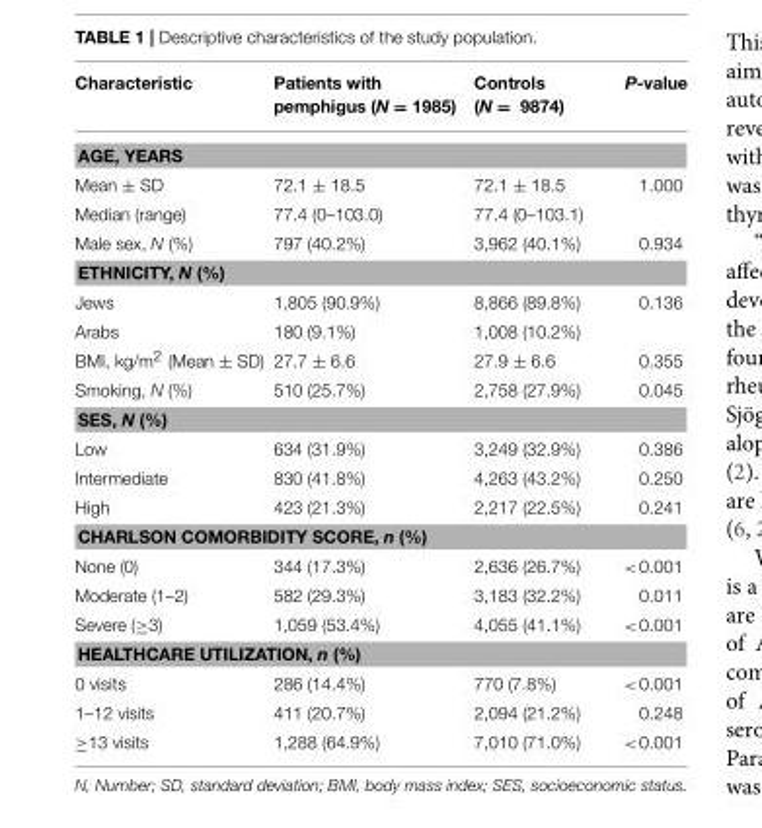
<table><thead><tr><td>Characteristic</td><td>Patients with pemphigus (N = 1985)</td><td>Controls (N = 9874)</td><td>P-value</td></tr></thead><tbody><tr><td colspan="4">AGE, YEARS</td></tr><tr><td>Mean ± SD</td><td>72.1 ± 18.5</td><td>72.1 ± 18.5</td><td>1.000</td></tr><tr><td>Median (range)</td><td>77.4 (0–103.0)</td><td>77.4 (0–103.1)</td><td></td></tr><tr><td>Male sex, N (%)</td><td>797 (40.2%)</td><td>3,962 (40.1%)</td><td>0.934</td></tr><tr><td colspan="4">ETHNICITY, N (%)</td></tr><tr><td>Jews</td><td>1,805 (90.9%)</td><td>8,866 (89.8%)</td><td>0.136</td></tr><tr><td>Arabs</td><td>180 (9.1%)</td><td>1,008 (10.2%)</td><td></td></tr><tr><td>BMI, kg/m<sup>2</sup> (Mean ± SD)</td><td>27.7 ± 6.6</td><td>27.9 ± 6.6</td><td>0.355</td></tr><tr><td>Smoking, N (%)</td><td>510 (25.7%)</td><td>2,758 (27.9%)</td><td>0.045</td></tr><tr><td colspan="4">SES, N (%)</td></tr><tr><td>Low</td><td>634 (31.9%)</td><td>3,249 (32.9%)</td><td>0.386</td></tr><tr><td>Intermediate</td><td>830 (41.8%)</td><td>4,263 (43.2%)</td><td>0.250</td></tr><tr><td>High</td><td>423 (21.3%)</td><td>2,217 (22.5%)</td><td>0.241</td></tr><tr><td colspan="4">CHARLSON COMORBIDITY SCORE, n (%)</td></tr><tr><td>None (0)</td><td>344 (17.3%)</td><td>2,636 (26.7%)</td><td>&lt;0.001</td></tr><tr><td>Moderate (1–2)</td><td>582 (29.3%)</td><td>3,183 (32.2%)</td><td>0.011</td></tr><tr><td>Severe (≥3)</td><td>1,059 (53.4%)</td><td>4,055 (41.1%)</td><td>&lt;0.001</td></tr><tr><td colspan="4">HEALTHCARE UTILIZATION, n (%)</td></tr><tr><td>0 visits</td><td>286 (14.4%)</td><td>770 (7.8%)</td><td>&lt;0.001</td></tr><tr><td>1–12 visits</td><td>411 (20.7%)</td><td>2,094 (21.2%)</td><td>0.248</td></tr><tr><td>≥13 visits</td><td>1,288 (64.9%)</td><td>7,010 (71.0%)</td><td>&lt;0.001</td></tr></tbody></table>